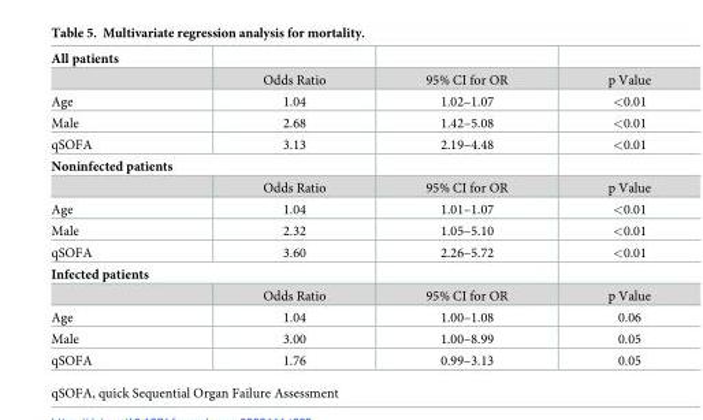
<table><tbody><tr><td colspan="4">All patients</td></tr><tr><td></td><td>Odds Ratio</td><td>95% CI for OR</td><td>p Value</td></tr><tr><td>Age</td><td>1.04</td><td>1.02–1.07</td><td>&lt;0.01</td></tr><tr><td>Male</td><td>2.68</td><td>1.42–5.08</td><td>&lt;0.01</td></tr><tr><td>qSOFA</td><td>3.13</td><td>2.19–4.48</td><td>&lt;0.01</td></tr><tr><td colspan="4">Noninfected patients</td></tr><tr><td></td><td>Odds Ratio</td><td>95% CI for OR</td><td>p Value</td></tr><tr><td>Age</td><td>1.04</td><td>1.01–1.07</td><td>&lt;0.01</td></tr><tr><td>Male</td><td>2.32</td><td>1.05–5.10</td><td>&lt;0.01</td></tr><tr><td>qSOFA</td><td>3.60</td><td>2.26–5.72</td><td>&lt;0.01</td></tr><tr><td colspan="4">Infected patients</td></tr><tr><td></td><td>Odds Ratio</td><td>95% CI for OR</td><td>p Value</td></tr><tr><td>Age</td><td>1.04</td><td>1.00–1.08</td><td>0.06</td></tr><tr><td>Male</td><td>3.00</td><td>1.00–8.99</td><td>0.05</td></tr><tr><td>qSOFA</td><td>1.76</td><td>0.99–3.13</td><td>0.05</td></tr></tbody></table>